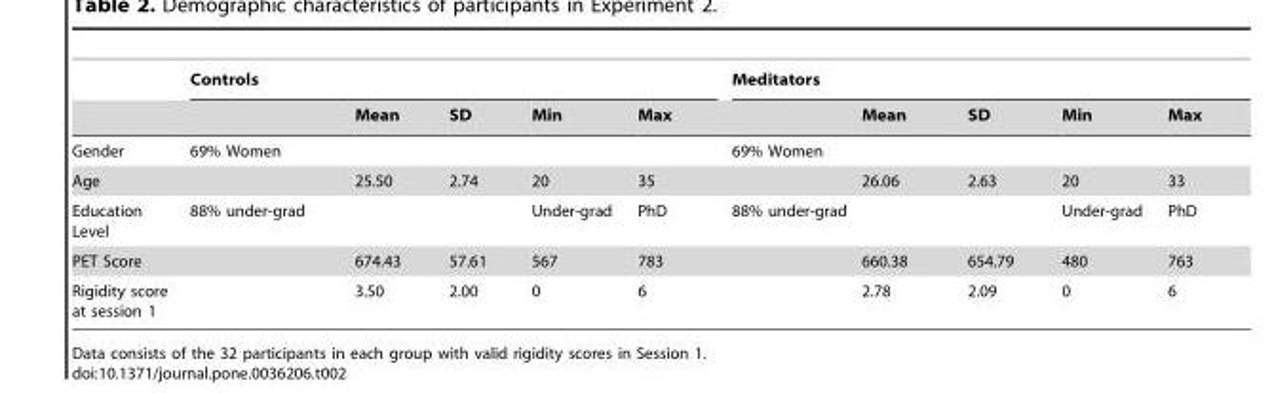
<table><thead><tr><td rowspan="2"></td><td colspan="5">Controls</td><td colspan="5">Meditators</td></tr><tr><td></td><td>Mean</td><td>SD</td><td>Min</td><td>Max</td><td></td><td>Mean</td><td>SD</td><td>Min</td><td>Max</td></tr></thead><tbody><tr><td>Gender</td><td>69% Women</td><td></td><td></td><td></td><td></td><td>69% Women</td><td></td><td></td><td></td><td></td></tr><tr><td>Age</td><td></td><td>25.50</td><td>2.74</td><td>20</td><td>35</td><td></td><td>26.06</td><td>2.63</td><td>20</td><td>33</td></tr><tr><td>Education Level</td><td>88% under-grad</td><td></td><td></td><td>Under-grad</td><td>PhD</td><td>88% under-grad</td><td></td><td></td><td>Under-grad</td><td>PhD</td></tr><tr><td>PET Score</td><td></td><td>674.43</td><td>57.61</td><td>567</td><td>783</td><td></td><td>660.38</td><td>654.79</td><td>480</td><td>763</td></tr><tr><td>Rigidity score at session 1</td><td></td><td>3.50</td><td>2.00</td><td>0</td><td>6</td><td></td><td>2.78</td><td>2.09</td><td>0</td><td>6</td></tr></tbody></table>